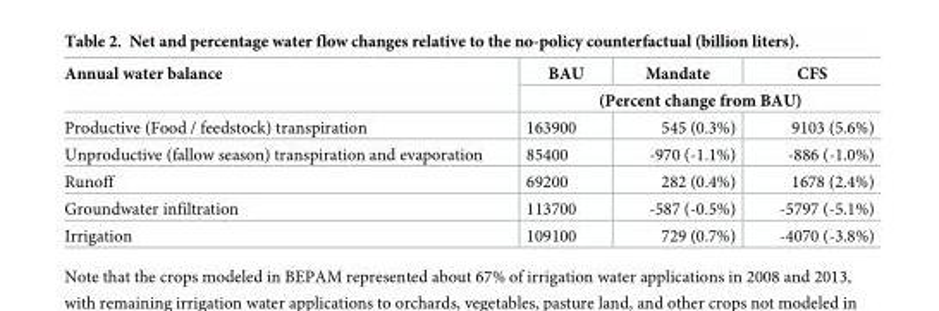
<table><thead><tr><td rowspan="2">Annual water balance</td><td>BAU</td><td>Mandate</td><td>CFS</td></tr><tr><td colspan="3">(Percent change from BAU)</td></tr></thead><tbody><tr><td>Productive (Food / feedstock) transpiration</td><td>163900</td><td>545 (0.3%)</td><td>9103 (5.6%)</td></tr><tr><td>Unproductive (fallow season) transpiration and evaporation</td><td>85400</td><td>-970 (-1.1%)</td><td>-886 (-1.0%)</td></tr><tr><td>Runoff</td><td>69200</td><td>282 (0.4%)</td><td>1678 (2.4%)</td></tr><tr><td>Groundwater infiltration</td><td>113700</td><td>-587 (-0.5%)</td><td>-5797 (-5.1%)</td></tr><tr><td>Irrigation</td><td>109100</td><td>729 (0.7%)</td><td>-4070 (-3.8%)</td></tr></tbody></table>